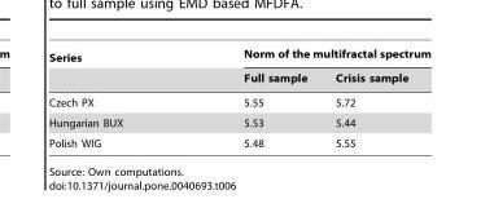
<table><thead><tr><td rowspan="2">Series</td><td colspan="2">Norm of the multifractal spectrum</td></tr><tr><td>Full sample</td><td>Crisis sample</td></tr></thead><tbody><tr><td>Czech PX</td><td>5.55</td><td>5.72</td></tr><tr><td>Hungarian BUX</td><td>5.53</td><td>5.44</td></tr><tr><td>Polish WIG</td><td>5.48</td><td>5.55</td></tr></tbody></table>